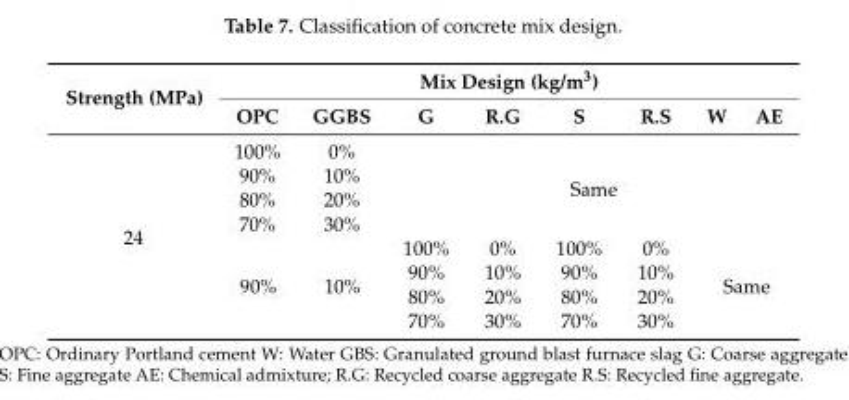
<table><thead><tr><td rowspan="2">Strength (MPa)</td><td colspan="8">Mix Design (kg/m<sup>3</sup>)</td></tr><tr><td>OPC</td><td>GGBS</td><td>G</td><td>R.G</td><td>S</td><td>R.S</td><td>W</td><td>AE</td></tr></thead><tbody><tr><td rowspan="8">24</td><td>100%</td><td>0%</td><td rowspan="4" colspan="6">Same</td></tr><tr><td>90%</td><td>10%</td></tr><tr><td>80%</td><td>20%</td></tr><tr><td>70%</td><td>30%</td></tr><tr><td rowspan="4">90%</td><td rowspan="4">10%</td><td>100%</td><td>0%</td><td>100%</td><td>0%</td><td rowspan="4" colspan="2">Same</td></tr><tr><td>90%</td><td>10%</td><td>90%</td><td>10%</td></tr><tr><td>80%</td><td>20%</td><td>80%</td><td>20%</td></tr><tr><td>70%</td><td>30%</td><td>70%</td><td>30%</td></tr></tbody></table>